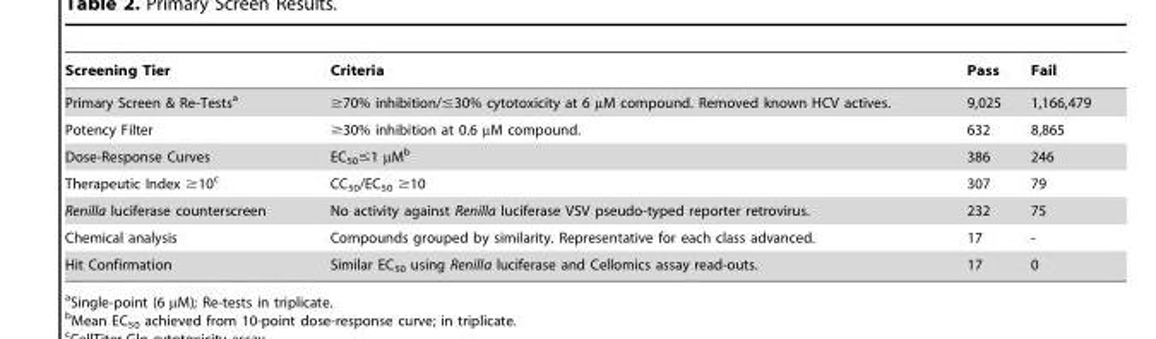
<table><thead><tr><td>Screening Tier</td><td>Criteria</td><td>Pass</td><td>Fail</td></tr></thead><tbody><tr><td>Primary Screen &amp; Re-Tests<sup>a</sup></td><td>≥70% inhibition/≤30% cytotoxicity at 6 µM compound. Removed known HCV actives.</td><td>9,025</td><td>1,166,479</td></tr><tr><td>Potency Filter</td><td>≥30% inhibition at 0.6 µM compound.</td><td>632</td><td>8,865</td></tr><tr><td>Dose-Response Curves</td><td>EC<sub>50</sub>≤1 µM<sup>b</sup></td><td>386</td><td>246</td></tr><tr><td>Therapeutic Index ≥10<sup>c</sup></td><td>CC<sub>50</sub>/EC<sub>50</sub> ≥10</td><td>307</td><td>79</td></tr><tr><td>Renilla luciferase counterscreen</td><td>No activity against Renilla luciferase VSV pseudo-typed reporter retrovirus.</td><td>232</td><td>75</td></tr><tr><td>Chemical analysis</td><td>Compounds grouped by similarity. Representative for each class advanced.</td><td>17</td><td>-</td></tr><tr><td>Hit Confirmation</td><td>Similar EC<sub>50</sub> using Renilla luciferase and Cellomics assay read-outs.</td><td>17</td><td>0</td></tr></tbody></table>